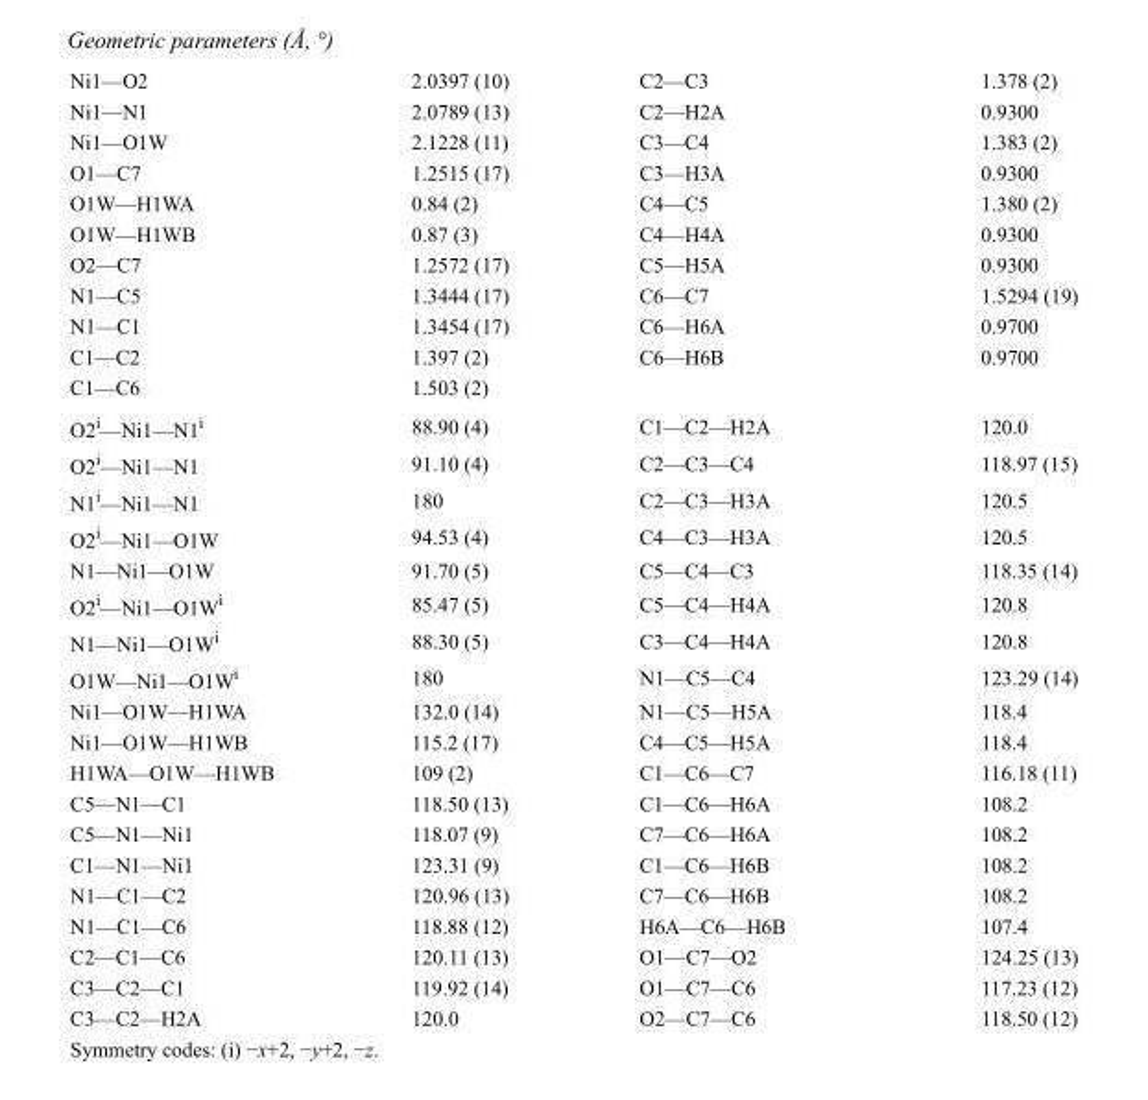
<table><tbody><tr><td>Ni1—O2</td><td>2.0397 (10)</td><td>C2—C3</td><td>1.378 (2)</td></tr><tr><td>Ni1—N1</td><td>2.0789 (13)</td><td>C2—H2A</td><td>0.9300</td></tr><tr><td>Ni1—O1W</td><td>2.1228 (11)</td><td>C3—C4</td><td>1.383 (2)</td></tr><tr><td>O1—C7</td><td>1.2515 (17)</td><td>C3—H3A</td><td>0.9300</td></tr><tr><td>O1W—H1WA</td><td>0.84 (2)</td><td>C4—C5</td><td>1.380 (2)</td></tr><tr><td>O1W—H1WB</td><td>0.87 (3)</td><td>C4—H4A</td><td>0.9300</td></tr><tr><td>O2—C7</td><td>1.2572 (17)</td><td>C5—H5A</td><td>0.9300</td></tr><tr><td>N1—C5</td><td>1.3444 (17)</td><td>C6—C7</td><td>1.5294 (19)</td></tr><tr><td>N1—C1</td><td>1.3454 (17)</td><td>C6—H6A</td><td>0.9700</td></tr><tr><td>C1—C2</td><td>1.397 (2)</td><td>C6—H6B</td><td>0.9700</td></tr><tr><td>C1—C6</td><td>1.503 (2)</td><td></td><td></td></tr><tr><td>O2<sup>i</sup>—Ni1—N1<sup>i</sup></td><td>88.90 (4)</td><td>C1—C2—H2A</td><td>120.0</td></tr><tr><td>O2<sup>i</sup>—Ni1—N1</td><td>91.10 (4)</td><td>C2—C3—C4</td><td>118.97 (15)</td></tr><tr><td>N1<sup>i</sup>—Ni1—N1</td><td>180</td><td>C2—C3—H3A</td><td>120.5</td></tr><tr><td>O2<sup>i</sup>—Ni1—O1W</td><td>94.53 (4)</td><td>C4—C3—H3A</td><td>120.5</td></tr><tr><td>N1—Ni1—O1W</td><td>91.70 (5)</td><td>C5—C4—C3</td><td>118.35 (14)</td></tr><tr><td>O2<sup>i</sup>—Ni1—O1W<sup>i</sup></td><td>85.47 (5)</td><td>C5—C4—H4A</td><td>120.8</td></tr><tr><td>N1—Ni1—O1W<sup>i</sup></td><td>88.30 (5)</td><td>C3—C4—H4A</td><td>120.8</td></tr><tr><td>O1W—Ni1—O1W<sup>i</sup></td><td>180</td><td>N1—C5—C4</td><td>123.29 (14)</td></tr><tr><td>Ni1—O1W—H1WA</td><td>132.0 (14)</td><td>N1—C5—H5A</td><td>118.4</td></tr><tr><td>Ni1—O1W—H1WB</td><td>115.2 (17)</td><td>C4—C5—H5A</td><td>118.4</td></tr><tr><td>H1WA—O1W—H1WB</td><td>109 (2)</td><td>C1—C6—C7</td><td>116.18 (11)</td></tr><tr><td>C5—N1—C1</td><td>118.50 (13)</td><td>C1—C6—H6A</td><td>108.2</td></tr><tr><td>C5—N1—Ni1</td><td>118.07 (9)</td><td>C7—C6—H6A</td><td>108.2</td></tr><tr><td>C1—N1—Ni1</td><td>123.31 (9)</td><td>C1—C6—H6B</td><td>108.2</td></tr><tr><td>N1—C1—C2</td><td>120.96 (13)</td><td>C7—C6—H6B</td><td>108.2</td></tr><tr><td>N1—C1—C6</td><td>118.88 (12)</td><td>H6A—C6—H6B</td><td>107.4</td></tr><tr><td>C2—C1—C6</td><td>120.11 (13)</td><td>O1—C7—O2</td><td>124.25 (13)</td></tr><tr><td>C3—C2—C1</td><td>119.92 (14)</td><td>O1—C7—C6</td><td>117.23 (12)</td></tr><tr><td>C3—C2—H2A</td><td>120.0</td><td>O2—C7—C6</td><td>118.50 (12)</td></tr></tbody></table>